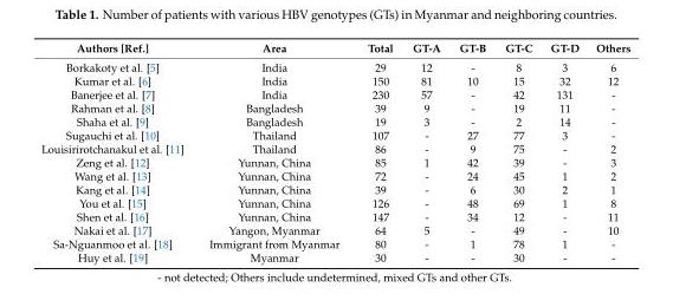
<table><thead><tr><td>Authors [Ref.]</td><td>Area</td><td>Total</td><td>GT-A</td><td>GT-B</td><td>GT-C</td><td>GT-D</td><td>Others</td></tr></thead><tbody><tr><td>Borkakoty et al. [5]</td><td>India</td><td>29</td><td>12</td><td>-</td><td>8</td><td>3</td><td>6</td></tr><tr><td>Kumar et al. [6]</td><td>India</td><td>150</td><td>81</td><td>10</td><td>15</td><td>32</td><td>12</td></tr><tr><td>Banerjee et al. [7]</td><td>India</td><td>230</td><td>57</td><td>-</td><td>42</td><td>131</td><td>-</td></tr><tr><td>Rahman et al. [8]</td><td>Bangladesh</td><td>39</td><td>9</td><td>-</td><td>19</td><td>11</td><td>-</td></tr><tr><td>Shaha et al. [9]</td><td>Bangladesh</td><td>19</td><td>3</td><td>-</td><td>2</td><td>14</td><td>-</td></tr><tr><td>Sugauchi et al. [10]</td><td>Thailand</td><td>107</td><td>-</td><td>27</td><td>77</td><td>3</td><td>-</td></tr><tr><td>Louisirirotchanakul et al. [11]</td><td>Thailand</td><td>86</td><td>-</td><td>9</td><td>75</td><td>-</td><td>2</td></tr><tr><td>Zeng et al. [12]</td><td>Yunnan, China</td><td>85</td><td>1</td><td>42</td><td>39</td><td>-</td><td>3</td></tr><tr><td>Wang et al. [13]</td><td>Yunnan, China</td><td>72</td><td>-</td><td>24</td><td>45</td><td>1</td><td>2</td></tr><tr><td>Kang et al. [14]</td><td>Yunnan, China</td><td>39</td><td>-</td><td>6</td><td>30</td><td>2</td><td>1</td></tr><tr><td>You et al. [15]</td><td>Yunnan, China</td><td>126</td><td>-</td><td>48</td><td>69</td><td>1</td><td>8</td></tr><tr><td>Shen et al. [16]</td><td>Yunnan, China</td><td>147</td><td>-</td><td>34</td><td>12</td><td>-</td><td>11</td></tr><tr><td>Nakai et al. [17]</td><td>Yangon, Myanmar</td><td>64</td><td>5</td><td>-</td><td>49</td><td>-</td><td>10</td></tr><tr><td>Sa-Nguanmoo et al. [18]</td><td>Immigrant from Myanmar</td><td>80</td><td>-</td><td>1</td><td>78</td><td>1</td><td>-</td></tr><tr><td>Huy et al. [19]</td><td>Myanmar</td><td>30</td><td>-</td><td>-</td><td>30</td><td>-</td><td>-</td></tr></tbody></table>